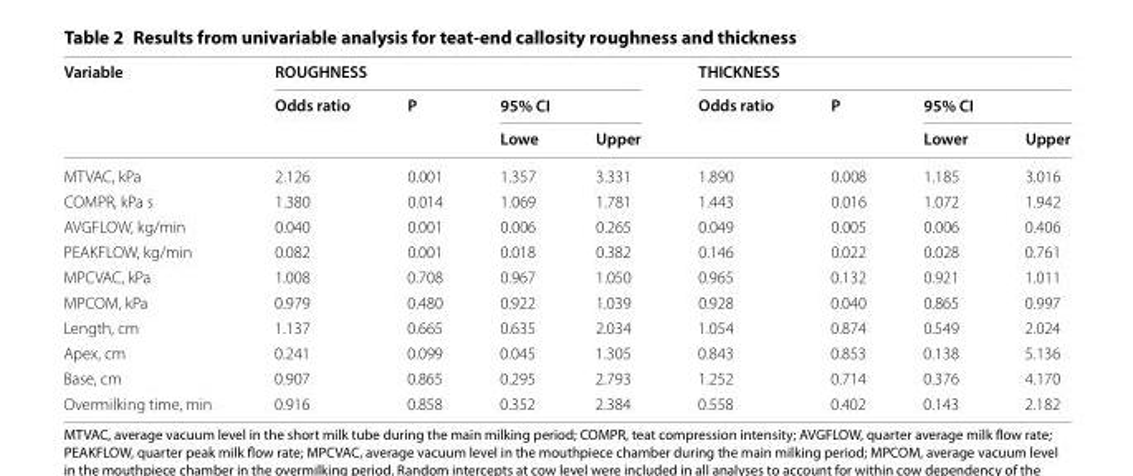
<table><thead><tr><td rowspan="3">Variable</td><td colspan="4">ROUGHNESS</td><td colspan="4">THICKNESS</td></tr><tr><td rowspan="2">Odds ratio</td><td rowspan="2">P</td><td colspan="2">95% CI</td><td rowspan="2">Odds ratio</td><td rowspan="2">P</td><td colspan="2">95% CI</td></tr><tr><td>Lowe</td><td>Upper</td><td>Lower</td><td>Upper</td></tr></thead><tbody><tr><td>MTVAC, kPa</td><td>2.126</td><td>0.001</td><td>1.357</td><td>3.331</td><td>1.890</td><td>0.008</td><td>1.185</td><td>3.016</td></tr><tr><td>COMPR, kPa s</td><td>1.380</td><td>0.014</td><td>1.069</td><td>1.781</td><td>1.443</td><td>0.016</td><td>1.072</td><td>1.942</td></tr><tr><td>AVGFLOW, kg/min</td><td>0.040</td><td>0.001</td><td>0.006</td><td>0.265</td><td>0.049</td><td>0.005</td><td>0.006</td><td>0.406</td></tr><tr><td>PEAKFLOW, kg/min</td><td>0.082</td><td>0.001</td><td>0.018</td><td>0.382</td><td>0.146</td><td>0.022</td><td>0.028</td><td>0.761</td></tr><tr><td>MPCVAC, kPa</td><td>1.008</td><td>0.708</td><td>0.967</td><td>1.050</td><td>0.965</td><td>0.132</td><td>0.921</td><td>1.011</td></tr><tr><td>MPCOM, kPa</td><td>0.979</td><td>0.480</td><td>0.922</td><td>1.039</td><td>0.928</td><td>0.040</td><td>0.865</td><td>0.997</td></tr><tr><td>Length, cm</td><td>1.137</td><td>0.665</td><td>0.635</td><td>2.034</td><td>1.054</td><td>0.874</td><td>0.549</td><td>2.024</td></tr><tr><td>Apex, cm</td><td>0.241</td><td>0.099</td><td>0.045</td><td>1.305</td><td>0.843</td><td>0.853</td><td>0.138</td><td>5.136</td></tr><tr><td>Base, cm</td><td>0.907</td><td>0.865</td><td>0.295</td><td>2.793</td><td>1.252</td><td>0.714</td><td>0.376</td><td>4.170</td></tr><tr><td>Overmilking time, min</td><td>0.916</td><td>0.858</td><td>0.352</td><td>2.384</td><td>0.558</td><td>0.402</td><td>0.143</td><td>2.182</td></tr></tbody></table>